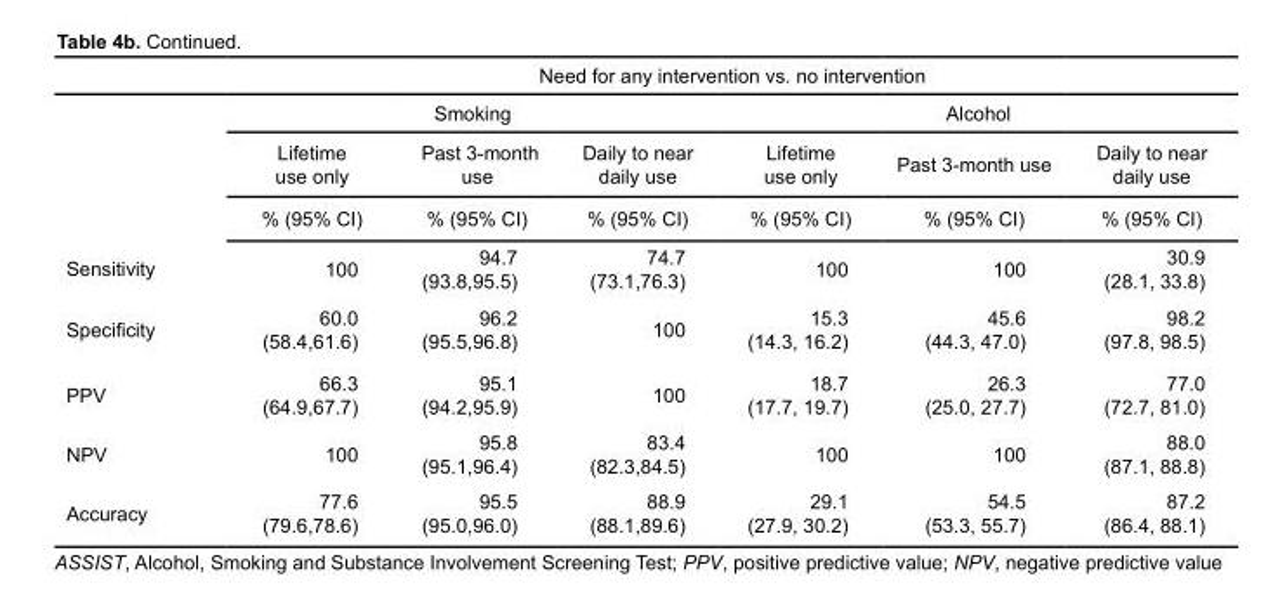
<table><thead><tr><td rowspan="4"></td><td colspan="6">Need for any intervention vs. no intervention</td></tr><tr><td colspan="3">Smoking</td><td colspan="3">Alcohol</td></tr><tr><td rowspan="2">Lifetime use only % (95% CI)</td><td rowspan="2">Past 3-month use % (95% CI)</td><td rowspan="2">Daily to near daily use % (95% CI)</td><td rowspan="2">Lifetime use only % (95% CI)</td><td rowspan="2">Past 3-month use % (95% CI)</td><td rowspan="2">Daily to near daily use % (95% CI)</td></tr><tr></tr></thead><tbody><tr><td>Sensitivity</td><td>100</td><td>94.7 (93.8,95.5)</td><td>74.7 (73.1,76.3)</td><td>100</td><td>100</td><td>30.9 (28.1, 33.8)</td></tr><tr><td>Specificity</td><td>60.0 (58.4,61.6)</td><td>96.2 (95.5,96.8)</td><td>100</td><td>15.3 (14.3, 16.2)</td><td>45.6 (44.3, 47.0)</td><td>98.2 (97.8, 98.5)</td></tr><tr><td>PPV</td><td>66.3 (64.9,67.7)</td><td>95.1 (94.2,95.9)</td><td>100</td><td>18.7 (17.7, 19.7)</td><td>26.3 (25.0, 27.7)</td><td>77.0 (72.7, 81.0)</td></tr><tr><td>NPV</td><td>100</td><td>95.8 (95.1,96.4)</td><td>83.4 (82.3,84.5)</td><td>100</td><td>100</td><td>88.0 (87.1, 88.8)</td></tr><tr><td>Accuracy</td><td>77.6 (79.6,78.6)</td><td>95.5 (95.0,96.0)</td><td>88.9 (88.1,89.6)</td><td>29.1 (27.9, 30.2)</td><td>54.5 (53.3, 55.7)</td><td>87.2 (86.4, 88.1)</td></tr></tbody></table>